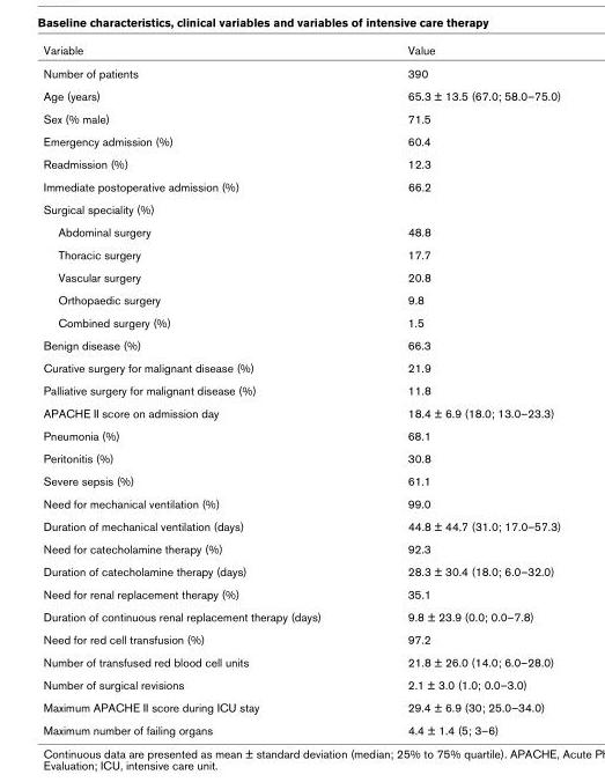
<table><thead><tr><td>Variable</td><td>Value</td></tr></thead><tbody><tr><td>Number of patients</td><td>390</td></tr><tr><td>Age (years)</td><td>65.3 ± 13.5 (67.0; 58.0–75.0)</td></tr><tr><td>Sex (% male)</td><td>71.5</td></tr><tr><td>Emergency admission (%)</td><td>60.4</td></tr><tr><td>Readmission (%)</td><td>12.3</td></tr><tr><td>Immediate postoperative admission (%)</td><td>66.2</td></tr><tr><td colspan="2">Surgical speciality (%)</td></tr><tr><td>Abdominal surgery</td><td>48.8</td></tr><tr><td>Thoracic surgery</td><td>17.7</td></tr><tr><td>Vascular surgery</td><td>20.8</td></tr><tr><td>Orthopaedic surgery</td><td>9.8</td></tr><tr><td>Combined surgery (%)</td><td>1.5</td></tr><tr><td>Benign disease (%)</td><td>66.3</td></tr><tr><td>Curative surgery for malignant disease (%)</td><td>21.9</td></tr><tr><td>Palliative surgery for malignant disease (%)</td><td>11.8</td></tr><tr><td>APACHE II score on admission day</td><td>18.4 ± 6.9 (18.0; 13.0–23.3)</td></tr><tr><td>Pneumonia (%)</td><td>68.1</td></tr><tr><td>Peritonitis (%)</td><td>30.8</td></tr><tr><td>Severe sepsis (%)</td><td>61.1</td></tr><tr><td>Need for mechanical ventilation (%)</td><td>99.0</td></tr><tr><td>Duration of mechanical ventilation (days)</td><td>44.8 ± 44.7 (31.0; 17.0–57.3)</td></tr><tr><td>Need for catecholamine therapy (%)</td><td>92.3</td></tr><tr><td>Duration of catecholamine therapy (days)</td><td>28.3 ± 30.4 (18.0; 6.0–32.0)</td></tr><tr><td>Need for renal replacement therapy (%)</td><td>35.1</td></tr><tr><td>Duration of continuous renal replacement therapy (days)</td><td>9.8 ± 23.9 (0.0; 0.0–7.8)</td></tr><tr><td>Need for red cell transfusion (%)</td><td>97.2</td></tr><tr><td>Number of transfused red blood cell units</td><td>21.8 ± 26.0 (14.0; 6.0–28.0)</td></tr><tr><td>Number of surgical revisions</td><td>2.1 ± 3.0 (1.0; 0.0–3.0)</td></tr><tr><td>Maximum APACHE II score during ICU stay</td><td>29.4 ± 6.9 (30; 25.0–34.0)</td></tr><tr><td>Maximum number of failing organs</td><td>4.4 ± 1.4 (5; 3–6)</td></tr></tbody></table>